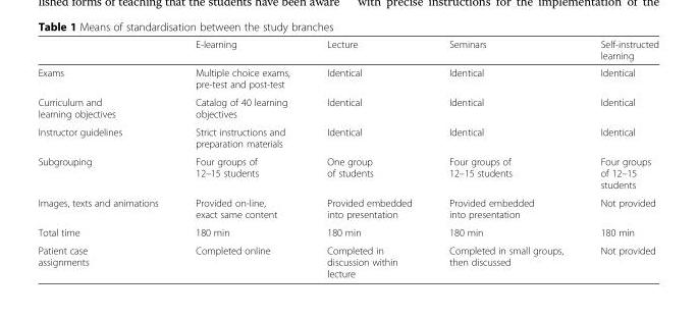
<table><thead><tr><td></td><td>E-learning</td><td>Lecture</td><td>Seminars</td><td>Self-instructed learning</td></tr></thead><tbody><tr><td>Exams</td><td>Multiple choice exams, pre-test and post-test</td><td>Identical</td><td>Identical</td><td>Identical</td></tr><tr><td>Curriculum and learning objectives</td><td>Catalog of 40 learning objectives</td><td>Identical</td><td>Identical</td><td>Identical</td></tr><tr><td>Instructor guidelines</td><td>Strict instructions and preparation materials</td><td>Identical</td><td>Identical</td><td>Identical</td></tr><tr><td>Subgrouping</td><td>Four groups of 12–15 students</td><td>One group of students</td><td>Four groups of 12–15 students</td><td>Four groups of 12–15 students</td></tr><tr><td>Images, texts and animations</td><td>Provided on-line, exact same content</td><td>Provided embedded into presentation</td><td>Provided embedded into presentation</td><td>Not provided</td></tr><tr><td>Total time</td><td>180 min</td><td>180 min</td><td>180 min</td><td>180 min</td></tr><tr><td>Patient case assignments</td><td>Completed online</td><td>Completed in discussion within lecture</td><td>Completed in small groups, then discussed</td><td>Not provided</td></tr></tbody></table>